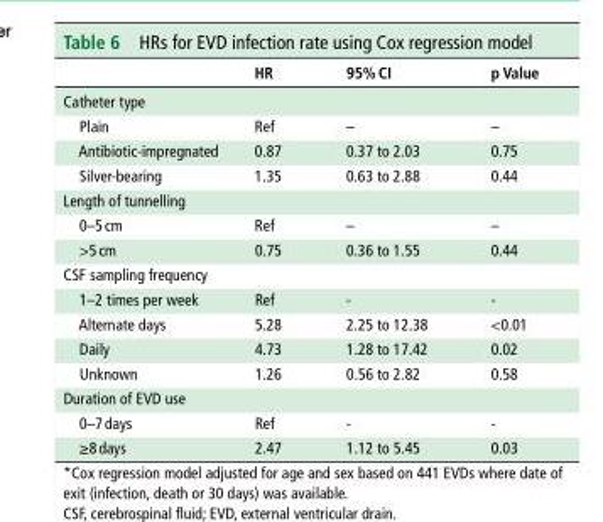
<table><thead><tr><td></td><td>hr</td><td>95% CI</td><td>p Value</td></tr></thead><tbody><tr><td colspan="4">Catheter type</td></tr><tr><td>Plain</td><td>Ref</td><td>–</td><td>–</td></tr><tr><td>Antibiotic-impregnated</td><td>0.87</td><td>0.37 to 2.03</td><td>0.75</td></tr><tr><td>Silver-bearing</td><td>1.35</td><td>0.63 to 2.88</td><td>0.44</td></tr><tr><td colspan="4">Length of tunnelling</td></tr><tr><td>0–5 cm</td><td>Ref</td><td>–</td><td>–</td></tr><tr><td>&gt;5 cm</td><td>0.75</td><td>0.36 to 1.55</td><td>0.44</td></tr><tr><td colspan="4">CSF sampling frequency</td></tr><tr><td>1–2 times per week</td><td>Ref</td><td>-</td><td>-</td></tr><tr><td>Alternate days</td><td>5.28</td><td>2.25 to 12.38</td><td>&lt;0.01</td></tr><tr><td>Daily</td><td>4.73</td><td>1.28 to 17.42</td><td>0.02</td></tr><tr><td>Unknown</td><td>1.26</td><td>0.56 to 2.82</td><td>0.58</td></tr><tr><td colspan="4">Duration of EVD use</td></tr><tr><td>0–7 days</td><td>Ref</td><td>-</td><td>-</td></tr><tr><td>≥8 days</td><td>2.47</td><td>1.12 to 5.45</td><td>0.03</td></tr></tbody></table>